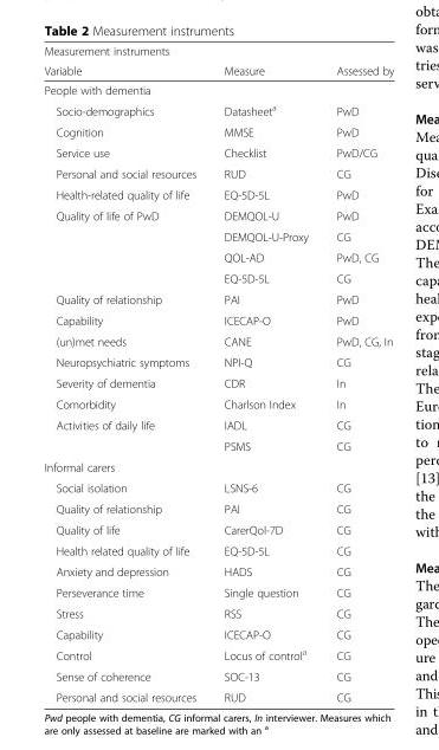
<table><thead><tr><td rowspan="2">Measurement instruments Variable</td><td rowspan="2">Measure</td><td rowspan="2">Assessed by</td></tr><tr></tr></thead><tbody><tr><td colspan="3">People with dementia</td></tr><tr><td>Socio-demographics</td><td>Datasheet<sup>a</sup></td><td>PwD</td></tr><tr><td>Cognition</td><td>MMSE</td><td>PwD</td></tr><tr><td>Service use</td><td>Checklist</td><td>PwD/CG</td></tr><tr><td>Personal and social resources</td><td>RUD</td><td>CG</td></tr><tr><td>Health-related quality of life</td><td>EQ-5D-5L</td><td>PwD</td></tr><tr><td rowspan="4">Quality of life of PwD</td><td>DEMQOL-U</td><td>PwD</td></tr><tr><td>DEMQOL-U-Proxy</td><td>CG</td></tr><tr><td>QOL-AD</td><td>PwD, CG</td></tr><tr><td>EQ-5D-5L</td><td>CG</td></tr><tr><td>Quality of relationship</td><td>PAI</td><td>PwD</td></tr><tr><td>Capability</td><td>ICECAP-O</td><td>PwD</td></tr><tr><td>(un)met needs</td><td>CANE</td><td>PwD, CG, In</td></tr><tr><td>Neuropsychiatric symptoms</td><td>NPI-Q</td><td>CG</td></tr><tr><td>Severity of dementia</td><td>CDR</td><td>In</td></tr><tr><td>Comorbidity</td><td>Charlson Index</td><td>In</td></tr><tr><td rowspan="2">Activities of daily life</td><td>IADL</td><td>CG</td></tr><tr><td>PSMS</td><td>CG</td></tr><tr><td colspan="3">Informal carers</td></tr><tr><td>Social isolation</td><td>LSNS-6</td><td>CG</td></tr><tr><td>Quality of relationship</td><td>PAI</td><td>CG</td></tr><tr><td>Quality of life</td><td>CarerQol-7D</td><td>CG</td></tr><tr><td>Health related quality of life</td><td>EQ-5D-5L</td><td>CG</td></tr><tr><td>Anxiety and depression</td><td>HADS</td><td>CG</td></tr><tr><td>Perseverance time</td><td>Single question</td><td>CG</td></tr><tr><td>Stress</td><td>RSS</td><td>CG</td></tr><tr><td>Capability</td><td>ICECAP-O</td><td>CG</td></tr><tr><td>Control</td><td>Locus of control<sup>a</sup></td><td>CG</td></tr><tr><td>Sense of coherence</td><td>SOC-13</td><td>CG</td></tr><tr><td>Personal and social resources</td><td>RUD</td><td>CG</td></tr></tbody></table>